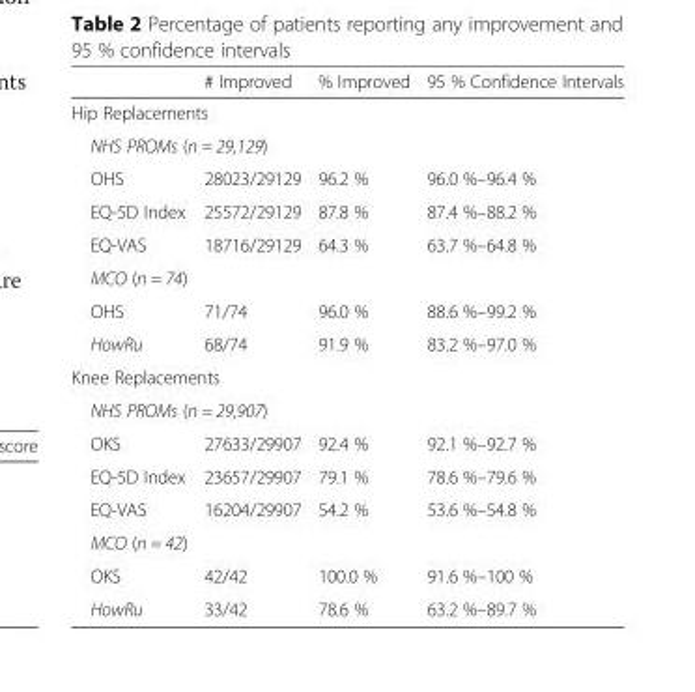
<table><thead><tr><td></td><td># Improved</td><td>% Improved</td><td>95 % Confidence Intervals</td></tr></thead><tbody><tr><td colspan="4">Hip Replacements</td></tr><tr><td colspan="4">NHS PROMs (n = 29,129)</td></tr><tr><td>OHS</td><td>28023/29129</td><td>96.2 %</td><td>96.0 %–96.4 %</td></tr><tr><td>EQ-5D Index</td><td>25572/29129</td><td>87.8 %</td><td>87.4 %–88.2 %</td></tr><tr><td>EQ-VAS</td><td>18716/29129</td><td>64.3 %</td><td>63.7 %–64.8 %</td></tr><tr><td colspan="4">MCO (n = 74)</td></tr><tr><td>OHS</td><td>71/74</td><td>96.0 %</td><td>88.6 %–99.2 %</td></tr><tr><td>HowRu</td><td>68/74</td><td>91.9 %</td><td>83.2 %–97.0 %</td></tr><tr><td colspan="4">Knee Replacements</td></tr><tr><td colspan="4">NHS PROMs (n = 29,907)</td></tr><tr><td>OKS</td><td>27633/29907</td><td>92.4 %</td><td>92.1 %–92.7 %</td></tr><tr><td>EQ-5D Index</td><td>23657/29907</td><td>79.1 %</td><td>78.6 %–79.6 %</td></tr><tr><td>EQ-VAS</td><td>16204/29907</td><td>54.2 %</td><td>53.6 %–54.8 %</td></tr><tr><td colspan="4">MCO (n = 42)</td></tr><tr><td>OKS</td><td>42/42</td><td>100.0 %</td><td>91.6 %–100 %</td></tr><tr><td>HowRu</td><td>33/42</td><td>78.6 %</td><td>63.2 %–89.7 %</td></tr></tbody></table>